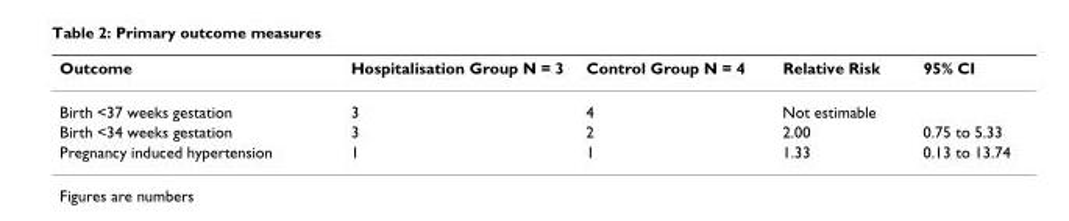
<table><thead><tr><td>Outcome</td><td>Hospitalisation Group N = 3</td><td>Control Group N = 4</td><td>Relative Risk</td><td>95% CI</td></tr></thead><tbody><tr><td>Birth &lt;37 weeks gestation</td><td>3</td><td>4</td><td>Not estimable</td><td></td></tr><tr><td>Birth &lt;34 weeks gestation</td><td>3</td><td>2</td><td>2.00</td><td>0.75 to 5.33</td></tr><tr><td>Pregnancy induced hypertension</td><td>1</td><td>1</td><td>1.33</td><td>0.13 to 13.74</td></tr></tbody></table>